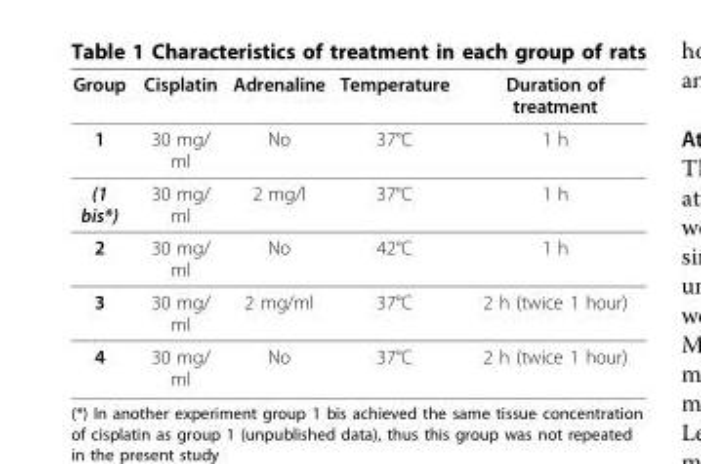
<table><thead><tr><td>Group</td><td>Cisplatin</td><td>Adrenaline</td><td>Temperature</td><td>Duration of treatment</td></tr></thead><tbody><tr><td>1</td><td>30 mg/ ml</td><td>No</td><td>37°C</td><td>1 h</td></tr><tr><td>(1 bis*)</td><td>30 mg/ ml</td><td>2 mg/l</td><td>37°C</td><td>1 h</td></tr><tr><td>2</td><td>30 mg/ ml</td><td>No</td><td>42°C</td><td>1 h</td></tr><tr><td>3</td><td>30 mg/ ml</td><td>2 mg/ml</td><td>37°C</td><td>2 h (twice 1 hour)</td></tr><tr><td>4</td><td>30 mg/ ml</td><td>No</td><td>37°C</td><td>2 h (twice 1 hour)</td></tr></tbody></table>